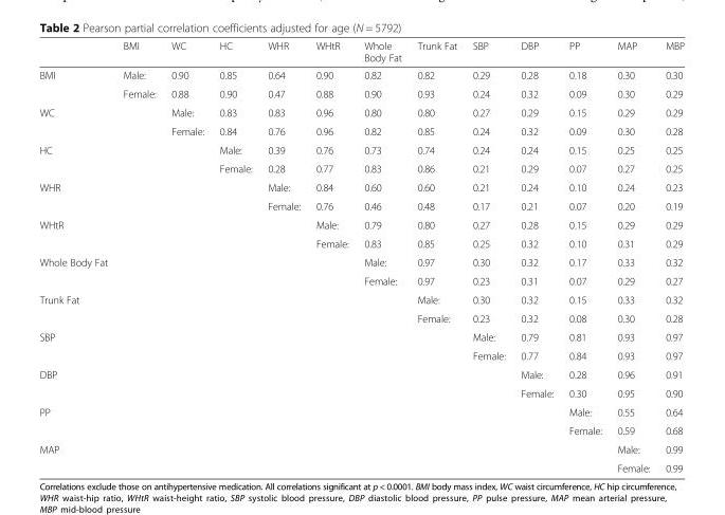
<table><thead><tr><td></td><td>BMI</td><td>WC</td><td>HC</td><td>WHR</td><td>WHtR</td><td>Whole Body Fat</td><td>Trunk Fat</td><td>SBP</td><td>DBP</td><td>PP</td><td>MAP</td><td>MBP</td></tr></thead><tbody><tr><td rowspan="2">BMI</td><td>Male:</td><td>0.90</td><td>0.85</td><td>0.64</td><td>0.90</td><td>0.82</td><td>0.82</td><td>0.29</td><td>0.28</td><td>0.18</td><td>0.30</td><td>0.30</td></tr><tr><td>Female:</td><td>0.88</td><td>0.90</td><td>0.47</td><td>0.88</td><td>0.90</td><td>0.93</td><td>0.24</td><td>0.32</td><td>0.09</td><td>0.30</td><td>0.29</td></tr><tr><td rowspan="2">WC</td><td></td><td>Male:</td><td>0.83</td><td>0.83</td><td>0.96</td><td>0.80</td><td>0.80</td><td>0.27</td><td>0.29</td><td>0.15</td><td>0.29</td><td>0.29</td></tr><tr><td></td><td>Female:</td><td>0.84</td><td>0.76</td><td>0.96</td><td>0.82</td><td>0.85</td><td>0.24</td><td>0.32</td><td>0.09</td><td>0.30</td><td>0.28</td></tr><tr><td rowspan="2">HC</td><td></td><td></td><td>Male:</td><td>0.39</td><td>0.76</td><td>0.73</td><td>0.74</td><td>0.24</td><td>0.24</td><td>0.15</td><td>0.25</td><td>0.25</td></tr><tr><td></td><td></td><td>Female:</td><td>0.28</td><td>0.77</td><td>0.83</td><td>0.86</td><td>0.21</td><td>0.29</td><td>0.07</td><td>0.27</td><td>0.25</td></tr><tr><td rowspan="2">WHR</td><td></td><td></td><td></td><td>Male:</td><td>0.84</td><td>0.60</td><td>0.60</td><td>0.21</td><td>0.24</td><td>0.10</td><td>0.24</td><td>0.23</td></tr><tr><td></td><td></td><td></td><td>Female:</td><td>0.76</td><td>0.46</td><td>0.48</td><td>0.17</td><td>0.21</td><td>0.07</td><td>0.20</td><td>0.19</td></tr><tr><td rowspan="2">WHtR</td><td></td><td></td><td></td><td></td><td>Male:</td><td>0.79</td><td>0.80</td><td>0.27</td><td>0.28</td><td>0.15</td><td>0.29</td><td>0.29</td></tr><tr><td></td><td></td><td></td><td></td><td>Female:</td><td>0.83</td><td>0.85</td><td>0.25</td><td>0.32</td><td>0.10</td><td>0.31</td><td>0.29</td></tr><tr><td rowspan="2">Whole Body Fat</td><td></td><td></td><td></td><td></td><td></td><td>Male:</td><td>0.97</td><td>0.30</td><td>0.32</td><td>0.17</td><td>0.33</td><td>0.32</td></tr><tr><td></td><td></td><td></td><td></td><td></td><td>Female:</td><td>0.97</td><td>0.23</td><td>0.31</td><td>0.07</td><td>0.29</td><td>0.27</td></tr><tr><td rowspan="2">Trunk Fat</td><td></td><td></td><td></td><td></td><td></td><td></td><td>Male:</td><td>0.30</td><td>0.32</td><td>0.15</td><td>0.33</td><td>0.32</td></tr><tr><td></td><td></td><td></td><td></td><td></td><td></td><td>Female:</td><td>0.23</td><td>0.32</td><td>0.08</td><td>0.30</td><td>0.28</td></tr><tr><td rowspan="2">SBP</td><td></td><td></td><td></td><td></td><td></td><td></td><td></td><td>Male:</td><td>0.79</td><td>0.81</td><td>0.93</td><td>0.97</td></tr><tr><td></td><td></td><td></td><td></td><td></td><td></td><td></td><td>Female:</td><td>0.77</td><td>0.84</td><td>0.93</td><td>0.97</td></tr><tr><td rowspan="2">DBP</td><td></td><td></td><td></td><td></td><td></td><td></td><td></td><td></td><td>Male:</td><td>0.28</td><td>0.96</td><td>0.91</td></tr><tr><td></td><td></td><td></td><td></td><td></td><td></td><td></td><td></td><td>Female:</td><td>0.30</td><td>0.95</td><td>0.90</td></tr><tr><td rowspan="2">PP</td><td></td><td></td><td></td><td></td><td></td><td></td><td></td><td></td><td></td><td>Male:</td><td>0.55</td><td>0.64</td></tr><tr><td></td><td></td><td></td><td></td><td></td><td></td><td></td><td></td><td></td><td>Female:</td><td>0.59</td><td>0.68</td></tr><tr><td rowspan="2">MAP</td><td></td><td></td><td></td><td></td><td></td><td></td><td></td><td></td><td></td><td></td><td>Male:</td><td>0.99</td></tr><tr><td></td><td></td><td></td><td></td><td></td><td></td><td></td><td></td><td></td><td></td><td>Female:</td><td>0.99</td></tr></tbody></table>